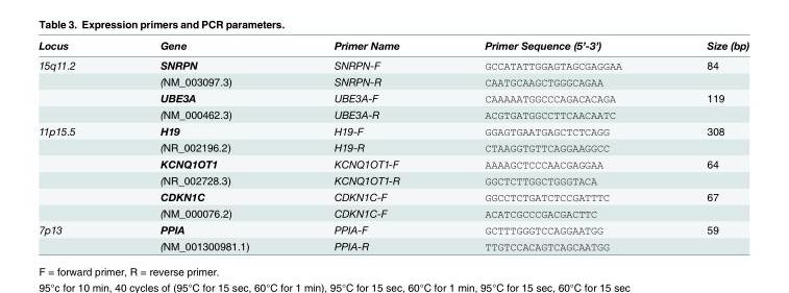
<table><thead><tr><td>Locus</td><td>Gene</td><td>Primer Name</td><td>Primer Sequence (5’-3’)</td><td>Size (bp)</td></tr></thead><tbody><tr><td rowspan="4">15q11.2</td><td>SNRPN</td><td>SNRPN-F</td><td>GCCATATTGGAGTAGCGAGGAA</td><td>84</td></tr><tr><td>(NM_003097.3)</td><td>SNRPN-R</td><td>CAATGCAAGCTGGGCAGAA</td><td></td></tr><tr><td>UBE3A</td><td>UBE3A-F</td><td>CAAAAATGGCCCAGACACAGA</td><td>119</td></tr><tr><td>(NM_000462.3)</td><td>UBE3A-R</td><td>ACGTGATGGCCTTCAACAATC</td><td></td></tr><tr><td rowspan="6">11p15.5</td><td>H19</td><td>H19-F</td><td>GGAGTGAATGAGCTCTCAGG</td><td>308</td></tr><tr><td>(NR_002196.2)</td><td>H19-R</td><td>CTAAGGTGTTCAGGAAGGCC</td><td></td></tr><tr><td>KCNQ1OT1</td><td>KCNQ1OT1-F</td><td>AAAAGCTCCCAACGAGGAA</td><td>64</td></tr><tr><td>(NR_002728.3)</td><td>KCNQ1OT1-R</td><td>GGCTCTTGGCTGGGTACA</td><td></td></tr><tr><td>CDKN1C</td><td>CDKN1C-F</td><td>GGCCTCTGATCTCCGATTTC</td><td>67</td></tr><tr><td>(NM_000076.2)</td><td>CDKN1C-F</td><td>ACATCGCCCGACGACTTC</td><td></td></tr><tr><td rowspan="2">7p13</td><td>PPIA</td><td>PPIA-F</td><td>GCTTTGGGTCCAGGAATGG</td><td>59</td></tr><tr><td>(NM_001300981.1)</td><td>PPIA-R</td><td>TTGTCCACAGTCAGCAATGG</td><td></td></tr></tbody></table>